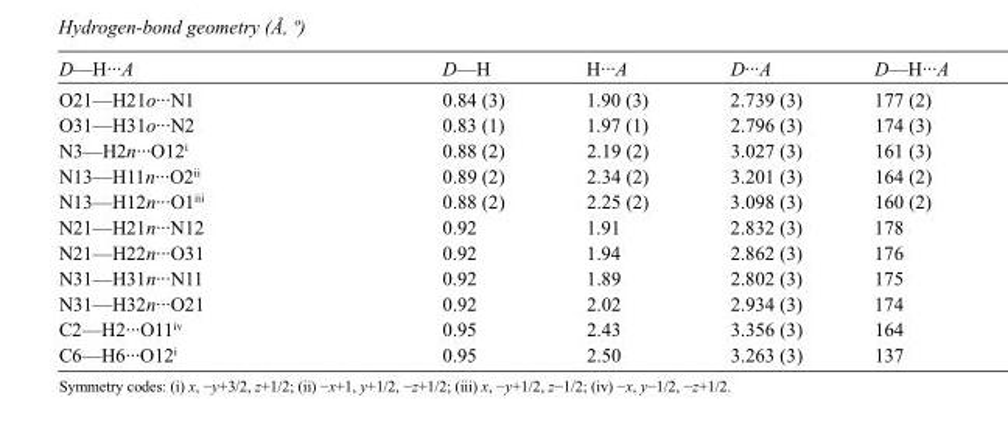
<table><tbody><tr><td>D—H···A</td><td>D—H</td><td>H···A</td><td>D···A</td><td>D—H···A</td></tr><tr><td>O21—H21o···N1</td><td>0.84 (3)</td><td>1.90 (3)</td><td>2.739 (3)</td><td>177 (2)</td></tr><tr><td>O31—H31o···N2</td><td>0.83 (1)</td><td>1.97 (1)</td><td>2.796 (3)</td><td>174 (3)</td></tr><tr><td>N3—H2n···O12<sup>i</sup></td><td>0.88 (2)</td><td>2.19 (2)</td><td>3.027 (3)</td><td>161 (3)</td></tr><tr><td>N13—H11n···O2<sup>ii</sup></td><td>0.89 (2)</td><td>2.34 (2)</td><td>3.201 (3)</td><td>164 (2)</td></tr><tr><td>N13—H12n···O1<sup>iii</sup></td><td>0.88 (2)</td><td>2.25 (2)</td><td>3.098 (3)</td><td>160 (2)</td></tr><tr><td>N21—H21n···N12</td><td>0.92</td><td>1.91</td><td>2.832 (3)</td><td>178</td></tr><tr><td>N21—H22n···O31</td><td>0.92</td><td>1.94</td><td>2.862 (3)</td><td>176</td></tr><tr><td>N31—H31n···N11</td><td>0.92</td><td>1.89</td><td>2.802 (3)</td><td>175</td></tr><tr><td>N31—H32n···O21</td><td>0.92</td><td>2.02</td><td>2.934 (3)</td><td>174</td></tr><tr><td>C2—H2···O11<sup>iv</sup></td><td>0.95</td><td>2.43</td><td>3.356 (3)</td><td>164</td></tr><tr><td>C6—H6···O12<sup>i</sup></td><td>0.95</td><td>2.50</td><td>3.263 (3)</td><td>137</td></tr></tbody></table>